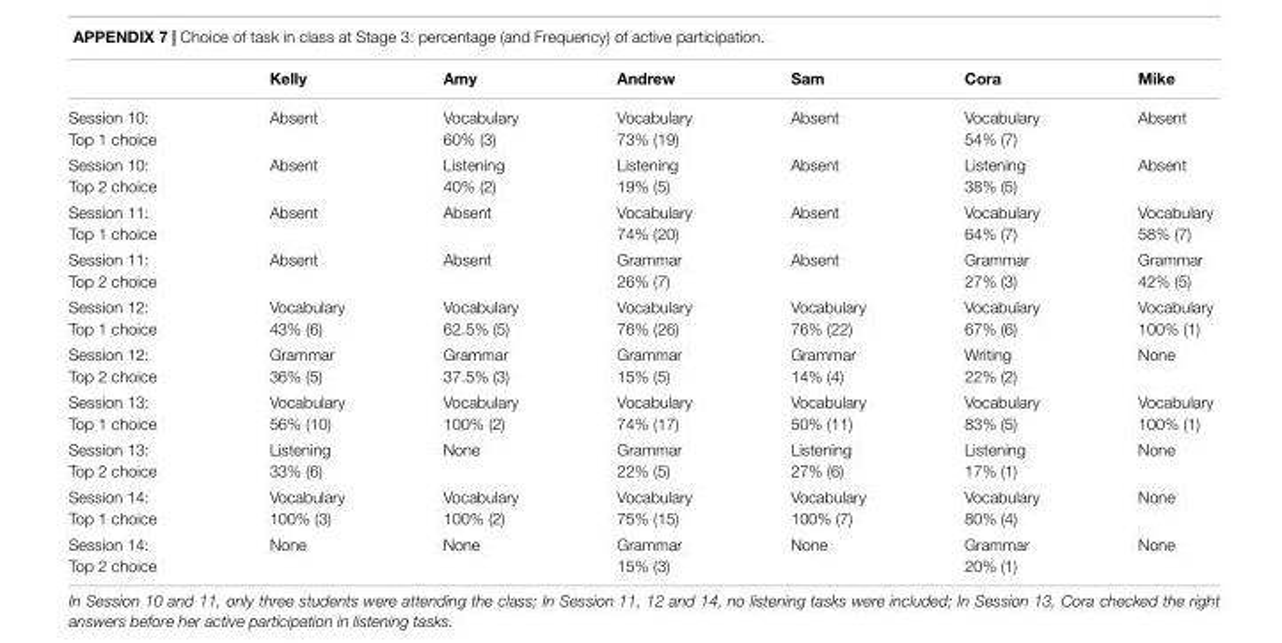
<table><thead><tr><td></td><td>Kelly</td><td>Amy</td><td>Andrew</td><td>Sam</td><td>Cora</td><td>Mike</td></tr></thead><tbody><tr><td>Session 10: Top 1 choice</td><td>Absent</td><td>Vocabulary 60% (3)</td><td>Vocabulary 73% (19)</td><td>Absent</td><td>Vocabulary 54% (7)</td><td>Absent</td></tr><tr><td>Session 10: Top 2 choice</td><td>Absent</td><td>Listening 40% (2)</td><td>Listening 19% (5)</td><td>Absent</td><td>Listening 38% (5)</td><td>Absent</td></tr><tr><td>Session 11: Top 1 choice</td><td>Absent</td><td>Absent</td><td>Vocabulary 74% (20)</td><td>Absent</td><td>Vocabulary 64% (7)</td><td>Vocabulary 58% (7)</td></tr><tr><td>Session 11: Top 2 choice</td><td>Absent</td><td>Absent</td><td>Grammar 26% (7)</td><td>Absent</td><td>Grammar 27% (3)</td><td>Grammar 42% (5)</td></tr><tr><td>Session 12: Top 1 choice</td><td>Vocabulary 43% (6)</td><td>Vocabulary 62.5% (5)</td><td>Vocabulary 76% (26)</td><td>Vocabulary 76% (22)</td><td>Vocabulary 67% (6)</td><td>Vocabulary 100% (1)</td></tr><tr><td>Session 12: Top 2 choice</td><td>Grammar 36% (5)</td><td>Grammar 37.5% (3)</td><td>Grammar 15% (5)</td><td>Grammar 14% (4)</td><td>Writing 22% (2)</td><td>None</td></tr><tr><td>Session 13: Top 1 choice</td><td>Vocabulary 56% (10)</td><td>Vocabulary 100% (2)</td><td>Vocabulary 74% (17)</td><td>Vocabulary 50% (11)</td><td>Vocabulary 83% (5)</td><td>Vocabulary 100% (1)</td></tr><tr><td>Session 13: Top 2 choice</td><td>Listening 33% (6)</td><td>None</td><td>Grammar 22% (5)</td><td>Listening 27% (6)</td><td>Listening 17% (1)</td><td>None</td></tr><tr><td>Session 14: Top 1 choice</td><td>Vocabulary 100% (3)</td><td>Vocabulary 100% (2)</td><td>Vocabulary 75% (15)</td><td>Vocabulary 100% (7)</td><td>Vocabulary 80% (4)</td><td>None</td></tr><tr><td>Session 14: Top 2 choice</td><td>None</td><td>None</td><td>Grammar 15% (3)</td><td>None</td><td>Grammar 20% (1)</td><td>None</td></tr></tbody></table>